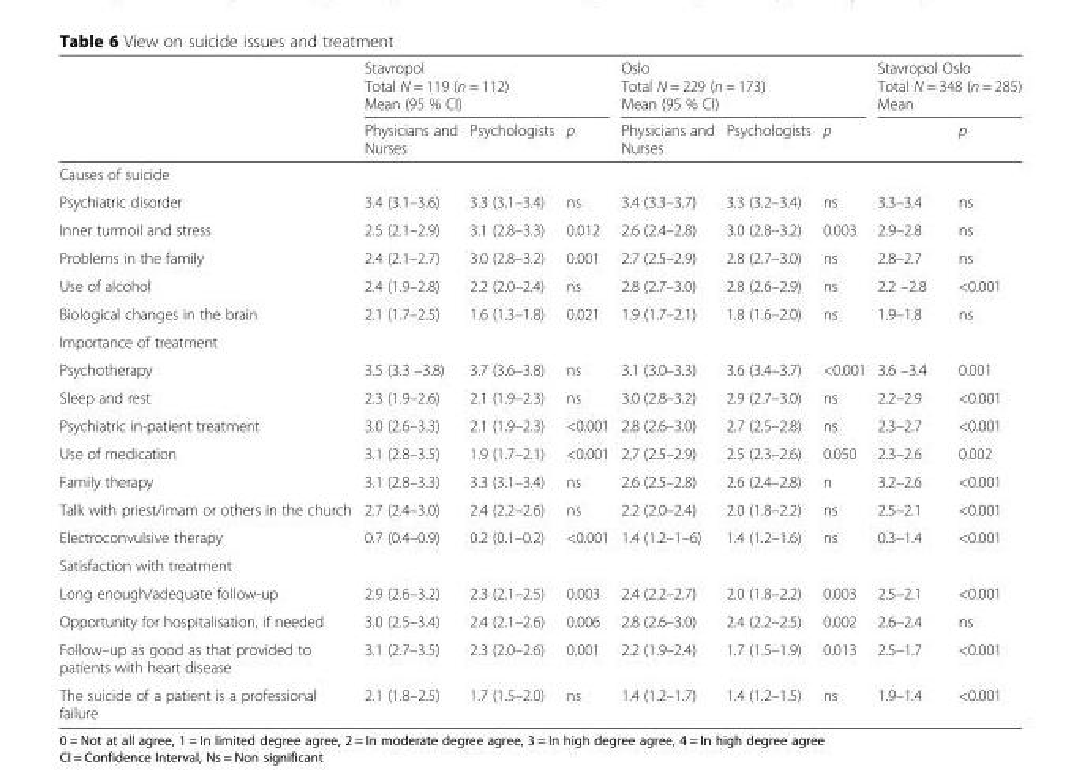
<table><thead><tr><td rowspan="4"></td><td rowspan="3" colspan="3">Stavropol Total N = 119 (n = 112) Mean (95 % CI)</td><td rowspan="3" colspan="3">Oslo Total N = 229 (n = 173) Mean (95 % CI)</td><td rowspan="3" colspan="2">Stavropol Oslo Total N = 348 (n = 285) Mean</td></tr><tr></tr><tr></tr><tr><td>Physicians and Nurses</td><td>Psychologists</td><td>p</td><td>Physicians and Nurses</td><td>Psychologists</td><td>p</td><td></td><td>p</td></tr></thead><tbody><tr><td colspan="9">Causes of suicide</td></tr><tr><td>Psychiatric disorder</td><td>3.4 (3.1–3.6)</td><td>3.3 (3.1–3.4)</td><td>ns</td><td>3.4 (3.3–3.7)</td><td>3.3 (3.2–3.4)</td><td>ns</td><td>3.3–3.4</td><td>ns</td></tr><tr><td>Inner turmoil and stress</td><td>2.5 (2.1–2.9)</td><td>3.1 (2.8–3.3)</td><td>0.012</td><td>2.6 (2.4–2.8)</td><td>3.0 (2.8–3.2)</td><td>0.003</td><td>2.9–2.8</td><td>ns</td></tr><tr><td>Problems in the family</td><td>2.4 (2.1–2.7)</td><td>3.0 (2.8–3.2)</td><td>0.001</td><td>2.7 (2.5–2.9)</td><td>2.8 (2.7–3.0)</td><td>ns</td><td>2.8–2.7</td><td>ns</td></tr><tr><td>Use of alcohol</td><td>2.4 (1.9–2.8)</td><td>2.2 (2.0–2.4)</td><td>ns</td><td>2.8 (2.7–3.0)</td><td>2.8 (2.6–2.9)</td><td>ns</td><td>2.2 –2.8</td><td>&lt;0.001</td></tr><tr><td>Biological changes in the brain</td><td>2.1 (1.7–2.5)</td><td>1.6 (1.3–1.8)</td><td>0.021</td><td>1.9 (1.7–2.1)</td><td>1.8 (1.6–2.0)</td><td>ns</td><td>1.9–1.8</td><td>ns</td></tr><tr><td colspan="9">Importance of treatment</td></tr><tr><td>Psychotherapy</td><td>3.5 (3.3 –3.8)</td><td>3.7 (3.6–3.8)</td><td>ns</td><td>3.1 (3.0–3.3)</td><td>3.6 (3.4–3.7)</td><td>&lt;0.001</td><td>3.6 –3.4</td><td>0.001</td></tr><tr><td>Sleep and rest</td><td>2.3 (1.9–2.6)</td><td>2.1 (1.9–2.3)</td><td>ns</td><td>3.0 (2.8–3.2)</td><td>2.9 (2.7–3.0)</td><td>ns</td><td>2.2–2.9</td><td>&lt;0.001</td></tr><tr><td>Psychiatric in-patient treatment</td><td>3.0 (2.6–3.3)</td><td>2.1 (1.9–2.3)</td><td>&lt;0.001</td><td>2.8 (2.6–3.0)</td><td>2.7 (2.5–2.8)</td><td>ns</td><td>2.3–2.7</td><td>&lt;0.001</td></tr><tr><td>Use of medication</td><td>3.1 (2.8–3.5)</td><td>1.9 (1.7–2.1)</td><td>&lt;0.001</td><td>2.7 (2.5–2.9)</td><td>2.5 (2.3–2.6)</td><td>0.050</td><td>2.3–2.6</td><td>0.002</td></tr><tr><td>Family therapy</td><td>3.1 (2.8–3.3)</td><td>3.3 (3.1–3.4)</td><td>ns</td><td>2.6 (2.5–2.8)</td><td>2.6 (2.4–2.8)</td><td>n</td><td>3.2–2.6</td><td>&lt;0.001</td></tr><tr><td>Talk with priest/imam or others in the church</td><td>2.7 (2.4–3.0)</td><td>2.4 (2.2–2.6)</td><td>ns</td><td>2.2 (2.0–2.4)</td><td>2.0 (1.8–2.2)</td><td>ns</td><td>2.5–2.1</td><td>&lt;0.001</td></tr><tr><td>Electroconvulsive therapy</td><td>0.7 (0.4–0.9)</td><td>0.2 (0.1–0.2)</td><td>&lt;0.001</td><td>1.4 (1.2–1–6)</td><td>1.4 (1.2–1.6)</td><td>ns</td><td>0.3–1.4</td><td>&lt;0.001</td></tr><tr><td colspan="9">Satisfaction with treatment</td></tr><tr><td>Long enough/adequate follow-up</td><td>2.9 (2.6–3.2)</td><td>2.3 (2.1–2.5)</td><td>0.003</td><td>2.4 (2.2–2.7)</td><td>2.0 (1.8–2.2)</td><td>0.003</td><td>2.5–2.1</td><td>&lt;0.001</td></tr><tr><td>Opportunity for hospitalisation, if needed</td><td>3.0 (2.5–3.4)</td><td>2.4 (2.1–2.6)</td><td>0.006</td><td>2.8 (2.6–3.0)</td><td>2.4 (2.2–2.5)</td><td>0.002</td><td>2.6–2.4</td><td>ns</td></tr><tr><td>Follow–up as good as that provided to patients with heart disease</td><td>3.1 (2.7–3.5)</td><td>2.3 (2.0–2.6)</td><td>0.001</td><td>2.2 (1.9–2.4)</td><td>1.7 (1.5–1.9)</td><td>0.013</td><td>2.5–1.7</td><td>&lt;0.001</td></tr><tr><td>The suicide of a patient is a professional failure</td><td>2.1 (1.8–2.5)</td><td>1.7 (1.5–2.0)</td><td>ns</td><td>1.4 (1.2–1.7)</td><td>1.4 (1.2–1.5)</td><td>ns</td><td>1.9–1.4</td><td>&lt;0.001</td></tr></tbody></table>